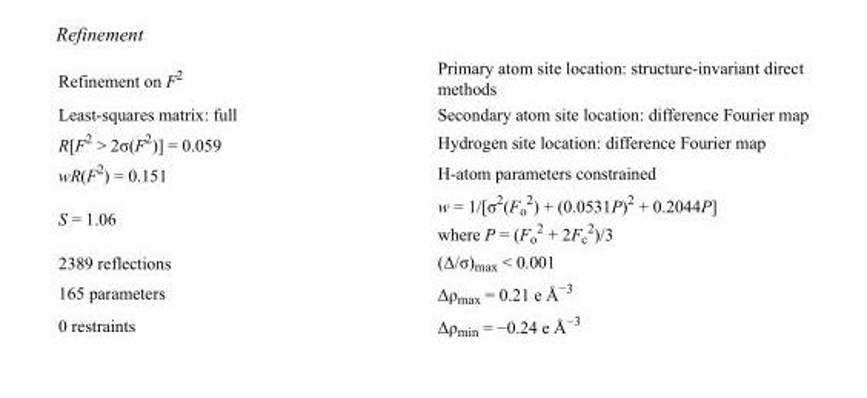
<table><tbody><tr><td>Refinement on F<sup>2</sup></td><td>Primary atom site location: structure-invariant direct methods</td></tr><tr><td>Least-squares matrix: full</td><td>Secondary atom site location: difference Fourier map</td></tr><tr><td>R[F<sup>2</sup> &gt; 2σ(F<sup>2</sup>)] = 0.059</td><td>Hydrogen site location: difference Fourier map</td></tr><tr><td>wR(F<sup>2</sup>) = 0.151</td><td>H-atom parameters constrained</td></tr><tr><td>S = 1.06</td><td>w = 1/[σ<sup>2</sup>(F<sub>o</sub> <sup>2</sup>) + (0.0531P)<sup>2</sup> + 0.2044P] where P = (F<sub>o</sub> <sup>2</sup> + 2F<sub>c</sub> <sup>2</sup>)/3</td></tr><tr><td>2389 reflections</td><td>(Δ/σ)<sub>max</sub> &lt; 0.001</td></tr><tr><td>165 parameters</td><td>Δρ<sub>max</sub> = 0.21 e Å<sup>−3</sup></td></tr><tr><td>0 restraints</td><td>Δρ<sub>min</sub> = −0.24 e Å<sup>−3</sup></td></tr></tbody></table>